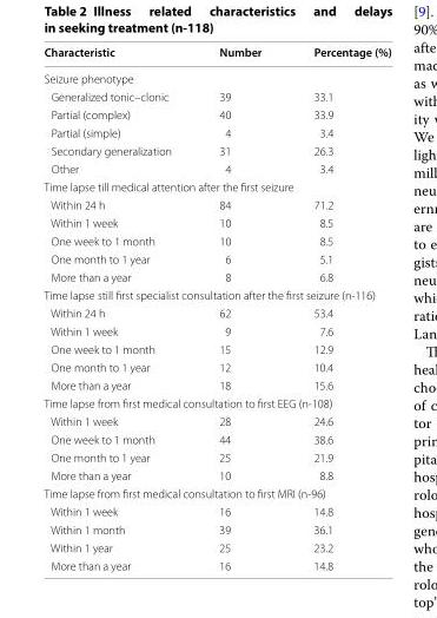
<table><thead><tr><td>Characteristic</td><td>Number</td><td>Percentage (%)</td></tr></thead><tbody><tr><td colspan="3">Seizure phenotype</td></tr><tr><td>Generalized tonic–clonic</td><td>39</td><td>33.1</td></tr><tr><td>Partial (complex)</td><td>40</td><td>33.9</td></tr><tr><td>Partial (simple)</td><td>4</td><td>3.4</td></tr><tr><td>Secondary generalization</td><td>31</td><td>26.3</td></tr><tr><td>Other</td><td>4</td><td>3.4</td></tr><tr><td colspan="3">Time lapse till medical attention after the first seizure</td></tr><tr><td>Within 24 h</td><td>84</td><td>71.2</td></tr><tr><td>Within 1 week</td><td>10</td><td>8.5</td></tr><tr><td>One week to 1 month</td><td>10</td><td>8.5</td></tr><tr><td>One month to 1 year</td><td>6</td><td>5.1</td></tr><tr><td>More than a year</td><td>8</td><td>6.8</td></tr><tr><td colspan="3">Time lapse still first specialist consultation after the first seizure (n-116)</td></tr><tr><td>Within 24 h</td><td>62</td><td>53.4</td></tr><tr><td>Within 1 week</td><td>9</td><td>7.6</td></tr><tr><td>One week to 1 month</td><td>15</td><td>12.9</td></tr><tr><td>One month to 1 year</td><td>12</td><td>10.4</td></tr><tr><td>More than a year</td><td>18</td><td>15.6</td></tr><tr><td colspan="3">Time lapse from first medical consultation to first EEG (n-108)</td></tr><tr><td>Within 1 week</td><td>28</td><td>24.6</td></tr><tr><td>One week to 1 month</td><td>44</td><td>38.6</td></tr><tr><td>One month to 1 year</td><td>25</td><td>21.9</td></tr><tr><td>More than a year</td><td>10</td><td>8.8</td></tr><tr><td colspan="3">Time lapse from first medical consultation to first MRI (n-96)</td></tr><tr><td>Within 1 week</td><td>16</td><td>14.8</td></tr><tr><td>Within 1 month</td><td>39</td><td>36.1</td></tr><tr><td>Within 1 year</td><td>25</td><td>23.2</td></tr><tr><td>More than a year</td><td>16</td><td>14.8</td></tr></tbody></table>